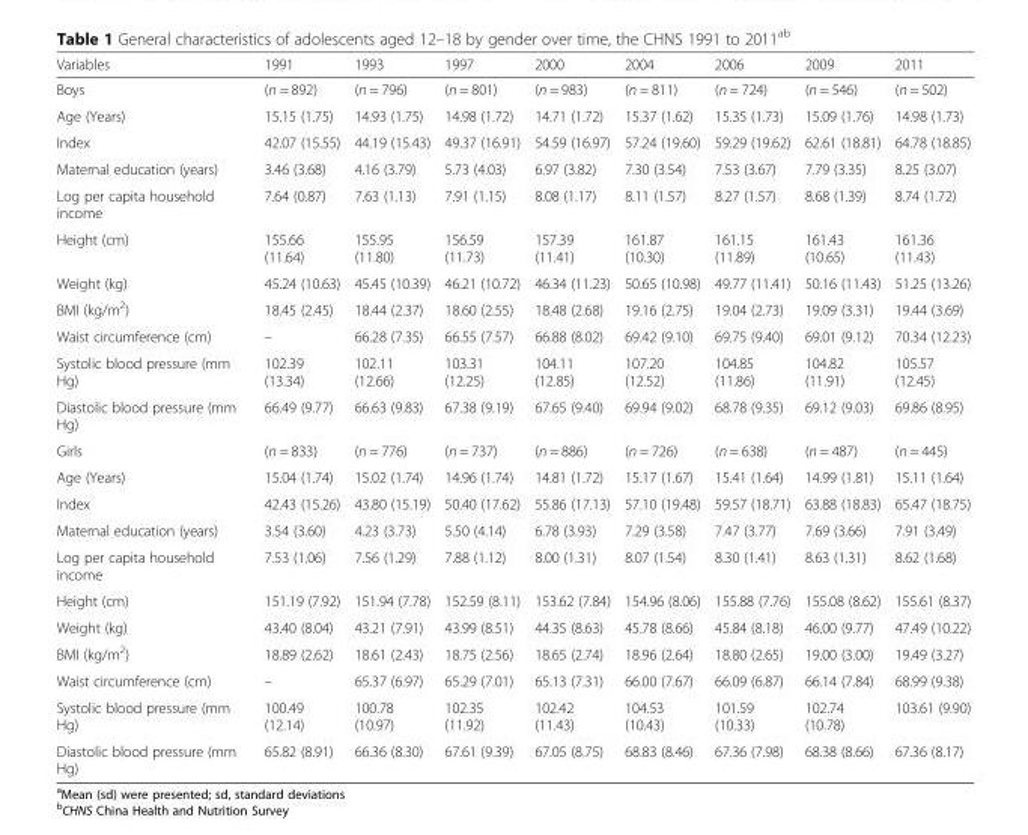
<table><thead><tr><td>Variables</td><td>1991</td><td>1993</td><td>1997</td><td>2000</td><td>2004</td><td>2006</td><td>2009</td><td>2011</td></tr></thead><tbody><tr><td>Boys</td><td>(n = 892)</td><td>(n = 796)</td><td>(n = 801)</td><td>(n = 983)</td><td>(n = 811)</td><td>(n = 724)</td><td>(n = 546)</td><td>(n = 502)</td></tr><tr><td>Age (Years)</td><td>15.15 (1.75)</td><td>14.93 (1.75)</td><td>14.98 (1.72)</td><td>14.71 (1.72)</td><td>15.37 (1.62)</td><td>15.35 (1.73)</td><td>15.09 (1.76)</td><td>14.98 (1.73)</td></tr><tr><td>Index</td><td>42.07 (15.55)</td><td>44.19 (15.43)</td><td>49.37 (16.91)</td><td>54.59 (16.97)</td><td>57.24 (19.60)</td><td>59.29 (19.62)</td><td>62.61 (18.81)</td><td>64.78 (18.85)</td></tr><tr><td>Maternal education (years)</td><td>3.46 (3.68)</td><td>4.16 (3.79)</td><td>5.73 (4.03)</td><td>6.97 (3.82)</td><td>7.30 (3.54)</td><td>7.53 (3.67)</td><td>7.79 (3.35)</td><td>8.25 (3.07)</td></tr><tr><td>Log per capita household income</td><td>7.64 (0.87)</td><td>7.63 (1.13)</td><td>7.91 (1.15)</td><td>8.08 (1.17)</td><td>8.11 (1.57)</td><td>8.27 (1.57)</td><td>8.68 (1.39)</td><td>8.74 (1.72)</td></tr><tr><td>Height (cm)</td><td>155.66 (11.64)</td><td>155.95 (11.80)</td><td>156.59 (11.73)</td><td>157.39 (11.41)</td><td>161.87 (10.30)</td><td>161.15 (11.89)</td><td>161.43 (10.65)</td><td>161.36 (11.43)</td></tr><tr><td>Weight (kg)</td><td>45.24 (10.63)</td><td>45.45 (10.39)</td><td>46.21 (10.72)</td><td>46.34 (11.23)</td><td>50.65 (10.98)</td><td>49.77 (11.41)</td><td>50.16 (11.43)</td><td>51.25 (13.26)</td></tr><tr><td>BMI (kg/m<sup>2</sup>)</td><td>18.45 (2.45)</td><td>18.44 (2.37)</td><td>18.60 (2.55)</td><td>18.48 (2.68)</td><td>19.16 (2.75)</td><td>19.04 (2.73)</td><td>19.09 (3.31)</td><td>19.44 (3.69)</td></tr><tr><td>Waist circumference (cm)</td><td>–</td><td>66.28 (7.35)</td><td>66.55 (7.57)</td><td>66.88 (8.02)</td><td>69.42 (9.10)</td><td>69.75 (9.40)</td><td>69.01 (9.12)</td><td>70.34 (12.23)</td></tr><tr><td>Systolic blood pressure (mm Hg)</td><td>102.39 (13.34)</td><td>102.11 (12.66)</td><td>103.31 (12.25)</td><td>104.11 (12.85)</td><td>107.20 (12.52)</td><td>104.85 (11.86)</td><td>104.82 (11.91)</td><td>105.57 (12.45)</td></tr><tr><td>Diastolic blood pressure (mm Hg)</td><td>66.49 (9.77)</td><td>66.63 (9.83)</td><td>67.38 (9.19)</td><td>67.65 (9.40)</td><td>69.94 (9.02)</td><td>68.78 (9.35)</td><td>69.12 (9.03)</td><td>69.86 (8.95)</td></tr><tr><td>Girls</td><td>(n = 833)</td><td>(n = 776)</td><td>(n = 737)</td><td>(n = 886)</td><td>(n = 726)</td><td>(n = 638)</td><td>(n = 487)</td><td>(n = 445)</td></tr><tr><td>Age (Years)</td><td>15.04 (1.74)</td><td>15.02 (1.74)</td><td>14.96 (1.74)</td><td>14.81 (1.72)</td><td>15.17 (1.67)</td><td>15.41 (1.64)</td><td>14.99 (1.81)</td><td>15.11 (1.64)</td></tr><tr><td>Index</td><td>42.43 (15.26)</td><td>43.80 (15.19)</td><td>50.40 (17.62)</td><td>55.86 (17.13)</td><td>57.10 (19.48)</td><td>59.57 (18.71)</td><td>63.88 (18.83)</td><td>65.47 (18.75)</td></tr><tr><td>Maternal education (years)</td><td>3.54 (3.60)</td><td>4.23 (3.73)</td><td>5.50 (4.14)</td><td>6.78 (3.93)</td><td>7.29 (3.58)</td><td>7.47 (3.77)</td><td>7.69 (3.66)</td><td>7.91 (3.49)</td></tr><tr><td>Log per capita household income</td><td>7.53 (1.06)</td><td>7.56 (1.29)</td><td>7.88 (1.12)</td><td>8.00 (1.31)</td><td>8.07 (1.54)</td><td>8.30 (1.41)</td><td>8.63 (1.31)</td><td>8.62 (1.68)</td></tr><tr><td>Height (cm)</td><td>151.19 (7.92)</td><td>151.94 (7.78)</td><td>152.59 (8.11)</td><td>153.62 (7.84)</td><td>154.96 (8.06)</td><td>155.88 (7.76)</td><td>155.08 (8.62)</td><td>155.61 (8.37)</td></tr><tr><td>Weight (kg)</td><td>43.40 (8.04)</td><td>43.21 (7.91)</td><td>43.99 (8.51)</td><td>44.35 (8.63)</td><td>45.78 (8.66)</td><td>45.84 (8.18)</td><td>46.00 (9.77)</td><td>47.49 (10.22)</td></tr><tr><td>BMI (kg/m<sup>2</sup>)</td><td>18.89 (2.62)</td><td>18.61 (2.43)</td><td>18.75 (2.56)</td><td>18.65 (2.74)</td><td>18.96 (2.64)</td><td>18.80 (2.65)</td><td>19.00 (3.00)</td><td>19.49 (3.27)</td></tr><tr><td>Waist circumference (cm)</td><td>–</td><td>65.37 (6.97)</td><td>65.29 (7.01)</td><td>65.13 (7.31)</td><td>66.00 (7.67)</td><td>66.09 (6.87)</td><td>66.14 (7.84)</td><td>68.99 (9.38)</td></tr><tr><td>Systolic blood pressure (mm Hg)</td><td>100.49 (12.14)</td><td>100.78 (10.97)</td><td>102.35 (11.92)</td><td>102.42 (11.43)</td><td>104.53 (10.43)</td><td>101.59 (10.33)</td><td>102.74 (10.78)</td><td>103.61 (9.90)</td></tr><tr><td>Diastolic blood pressure (mm Hg)</td><td>65.82 (8.91)</td><td>66.36 (8.30)</td><td>67.61 (9.39)</td><td>67.05 (8.75)</td><td>68.83 (8.46)</td><td>67.36 (7.98)</td><td>68.38 (8.66)</td><td>67.36 (8.17)</td></tr></tbody></table>